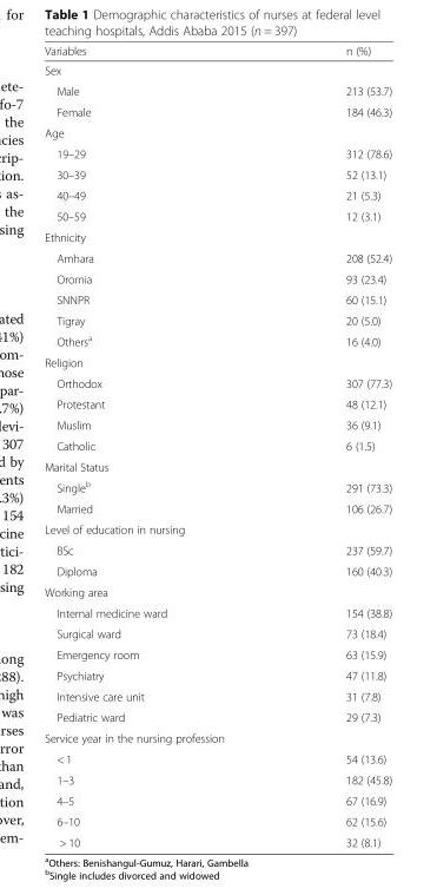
<table><thead><tr><td>Variables</td><td>n (%)</td></tr></thead><tbody><tr><td colspan="2">Sex</td></tr><tr><td>Male</td><td>213 (53.7)</td></tr><tr><td>Female</td><td>184 (46.3)</td></tr><tr><td colspan="2">Age</td></tr><tr><td>19–29</td><td>312 (78.6)</td></tr><tr><td>30–39</td><td>52 (13.1)</td></tr><tr><td>40–49</td><td>21 (5.3)</td></tr><tr><td>50–59</td><td>12 (3.1)</td></tr><tr><td colspan="2">Ethnicity</td></tr><tr><td>Amhara</td><td>208 (52.4)</td></tr><tr><td>Oromia</td><td>93 (23.4)</td></tr><tr><td>SNNPR</td><td>60 (15.1)</td></tr><tr><td>Tigray</td><td>20 (5.0)</td></tr><tr><td>Others<sup>a</sup></td><td>16 (4.0)</td></tr><tr><td colspan="2">Religion</td></tr><tr><td>Orthodox</td><td>307 (77.3)</td></tr><tr><td>Protestant</td><td>48 (12.1)</td></tr><tr><td>Muslim</td><td>36 (9.1)</td></tr><tr><td>Catholic</td><td>6 (1.5)</td></tr><tr><td colspan="2">Marital Status</td></tr><tr><td>Single<sup>b</sup></td><td>291 (73.3)</td></tr><tr><td>Married</td><td>106 (26.7)</td></tr><tr><td colspan="2">Level of education in nursing</td></tr><tr><td>BSc</td><td>237 (59.7)</td></tr><tr><td>Diploma</td><td>160 (40.3)</td></tr><tr><td colspan="2">Working area</td></tr><tr><td>Internal medicine ward</td><td>154 (38.8)</td></tr><tr><td>Surgical ward</td><td>73 (18.4)</td></tr><tr><td>Emergency room</td><td>63 (15.9)</td></tr><tr><td>Psychiatry</td><td>47 (11.8)</td></tr><tr><td>Intensive care unit</td><td>31 (7.8)</td></tr><tr><td>Pediatric ward</td><td>29 (7.3)</td></tr><tr><td colspan="2">Service year in the nursing profession</td></tr><tr><td>&lt; 1</td><td>54 (13.6)</td></tr><tr><td>1–3</td><td>182 (45.8)</td></tr><tr><td>4–5</td><td>67 (16.9)</td></tr><tr><td>6–10</td><td>62 (15.6)</td></tr><tr><td>&gt; 10</td><td>32 (8.1)</td></tr></tbody></table>